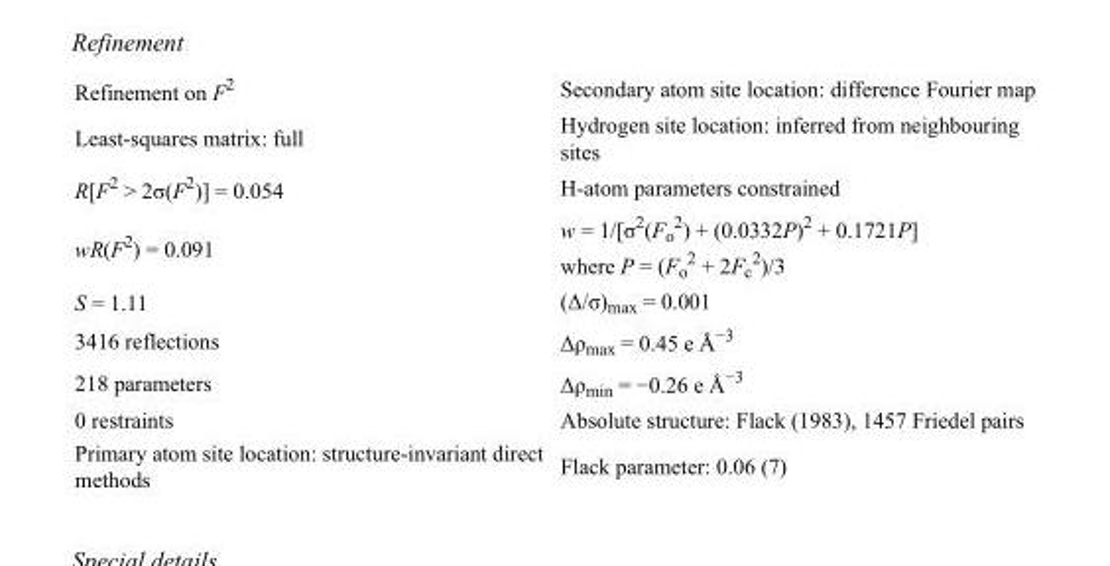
<table><tbody><tr><td>Refinement on F<sup>2</sup></td><td>Secondary atom site location: difference Fourier map</td></tr><tr><td>Least-squares matrix: full</td><td>Hydrogen site location: inferred from neighbouring sites</td></tr><tr><td>R[F<sup>2</sup> &gt; 2σ(F<sup>2</sup>)] = 0.054</td><td>H-atom parameters constrained</td></tr><tr><td>wR(F<sup>2</sup>) = 0.091</td><td>w = 1/[σ<sup>2</sup>(F<sub>o</sub> <sup>2</sup>) + (0.0332P)<sup>2</sup> + 0.1721P] where P = (F<sub>o</sub> <sup>2</sup> + 2F<sub>c</sub> <sup>2</sup>)/3</td></tr><tr><td>S = 1.11</td><td>(Δ/σ)<sub>max</sub> = 0.001</td></tr><tr><td>3416 reflections</td><td>Δρ<sub>max</sub> = 0.45 e Å<sup>−3</sup></td></tr><tr><td>218 parameters</td><td>Δρ<sub>min</sub> = −0.26 e Å<sup>−3</sup></td></tr><tr><td>0 restraints</td><td>Absolute structure: Flack (1983), 1457 Friedel pairs</td></tr><tr><td>Primary atom site location: structure-invariant direct methods</td><td>Flack parameter: 0.06 (7)</td></tr></tbody></table>